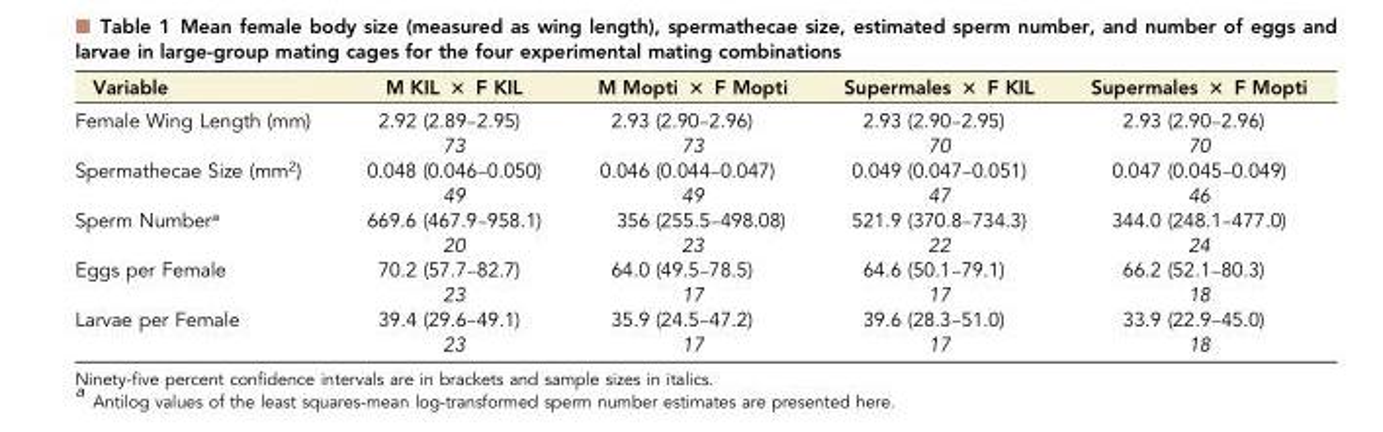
<table><thead><tr><td>Variable</td><td>M KIL × F KIL</td><td>M Mopti × F Mopti</td><td>Supermales × F KIL</td><td>Supermales × F Mopti</td></tr></thead><tbody><tr><td rowspan="2">Female Wing Length (mm)</td><td>2.92 (2.89–2.95)</td><td>2.93 (2.90–2.96)</td><td>2.93 (2.90–2.95)</td><td>2.93 (2.90–2.96)</td></tr><tr><td>73</td><td>73</td><td>70</td><td>70</td></tr><tr><td rowspan="2">Spermathecae Size (mm<sup>2</sup>)</td><td>0.048 (0.046–0.050)</td><td>0.046 (0.044–0.047)</td><td>0.049 (0.047–0.051)</td><td>0.047 (0.045–0.049)</td></tr><tr><td>49</td><td>49</td><td>47</td><td>46</td></tr><tr><td rowspan="2">Sperm Number<sup>a</sup></td><td>669.6 (467.9–958.1)</td><td>356 (255.5–498.08)</td><td>521.9 (370.8–734.3)</td><td>344.0 (248.1–477.0)</td></tr><tr><td>20</td><td>23</td><td>22</td><td>24</td></tr><tr><td rowspan="2">Eggs per Female</td><td>70.2 (57.7–82.7)</td><td>64.0 (49.5–78.5)</td><td>64.6 (50.1–79.1)</td><td>66.2 (52.1–80.3)</td></tr><tr><td>23</td><td>17</td><td>17</td><td>18</td></tr><tr><td rowspan="2">Larvae per Female</td><td>39.4 (29.6–49.1)</td><td>35.9 (24.5–47.2)</td><td>39.6 (28.3–51.0)</td><td>33.9 (22.9–45.0)</td></tr><tr><td>23</td><td>17</td><td>17</td><td>18</td></tr></tbody></table>